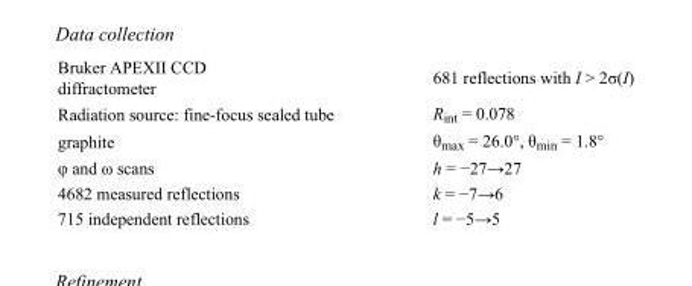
<table><tbody><tr><td>Bruker APEXII CCD diffractometer</td><td>681 reflections with I &gt; 2σ(I)</td></tr><tr><td>Radiation source: fine-focus sealed tube</td><td>R<sub>int</sub> = 0.078</td></tr><tr><td>graphite</td><td>θ<sub>max</sub> = 26.0°, θ<sub>min</sub> = 1.8°</td></tr><tr><td>φ and ω scans</td><td>h = −27→27</td></tr><tr><td>4682 measured reflections</td><td>k = −7→6</td></tr><tr><td>715 independent reflections</td><td>l = −5→5</td></tr></tbody></table>